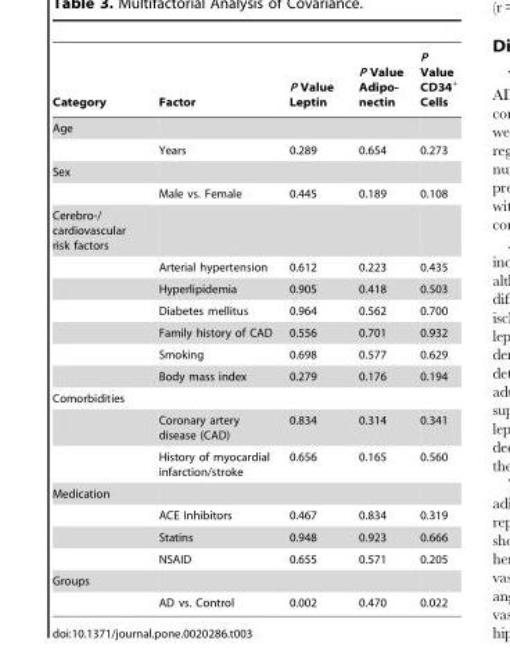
<table><thead><tr><td>Category</td><td>Factor</td><td>P Value Leptin</td><td>P Value Adipo- nectin</td><td>P Value CD34<sup>+</sup> Cells</td></tr></thead><tbody><tr><td colspan="5">Age</td></tr><tr><td></td><td>Years</td><td>0.289</td><td>0.654</td><td>0.273</td></tr><tr><td colspan="5">Sex</td></tr><tr><td></td><td>Male vs. Female</td><td>0.445</td><td>0.189</td><td>0.108</td></tr><tr><td colspan="5">Cerebro-/ cardiovascular risk factors</td></tr><tr><td></td><td>Arterial hypertension</td><td>0.612</td><td>0.223</td><td>0.435</td></tr><tr><td></td><td>Hyperlipidemia</td><td>0.905</td><td>0.418</td><td>0.503</td></tr><tr><td></td><td>Diabetes mellitus</td><td>0.964</td><td>0.562</td><td>0.700</td></tr><tr><td></td><td>Family history of CAD</td><td>0.556</td><td>0.701</td><td>0.932</td></tr><tr><td></td><td>Smoking</td><td>0.698</td><td>0.577</td><td>0.629</td></tr><tr><td></td><td>Body mass index</td><td>0.279</td><td>0.176</td><td>0.194</td></tr><tr><td colspan="5">Comorbidities</td></tr><tr><td></td><td>Coronary artery disease (CAD)</td><td>0.834</td><td>0.314</td><td>0.341</td></tr><tr><td></td><td>History of myocardial infarction/stroke</td><td>0.656</td><td>0.165</td><td>0.560</td></tr><tr><td colspan="5">Medication</td></tr><tr><td></td><td>ACE Inhibitors</td><td>0.467</td><td>0.834</td><td>0.319</td></tr><tr><td></td><td>Statins</td><td>0.948</td><td>0.923</td><td>0.666</td></tr><tr><td></td><td>NSAID</td><td>0.655</td><td>0.571</td><td>0.205</td></tr><tr><td colspan="5">Groups</td></tr><tr><td></td><td>AD vs. Control</td><td>0.002</td><td>0.470</td><td>0.022</td></tr></tbody></table>